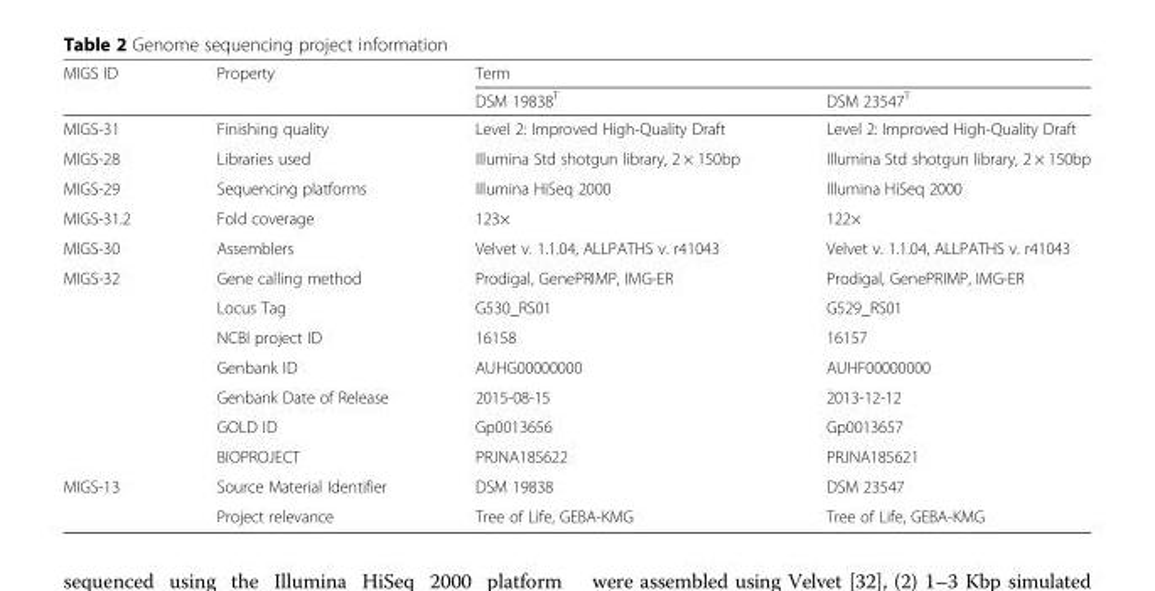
<table><thead><tr><td rowspan="2">MIGS ID</td><td rowspan="2">Property</td><td colspan="2">Term</td></tr><tr><td>DSM 19838<sup>T</sup></td><td>DSM 23547<sup>T</sup></td></tr></thead><tbody><tr><td>MIGS-31</td><td>Finishing quality</td><td>Level 2: Improved High-Quality Draft</td><td>Level 2: Improved High-Quality Draft</td></tr><tr><td>MIGS-28</td><td>Libraries used</td><td>Illumina Std shotgun library, 2 × 150bp</td><td>Illumina Std shotgun library, 2 × 150bp</td></tr><tr><td>MIGS-29</td><td>Sequencing platforms</td><td>Illumina HiSeq 2000</td><td>Illumina HiSeq 2000</td></tr><tr><td>MIGS-31.2</td><td>Fold coverage</td><td>123×</td><td>122×</td></tr><tr><td>MIGS-30</td><td>Assemblers</td><td>Velvet v. 1.1.04, ALLPATHS v. r41043</td><td>Velvet v. 1.1.04, ALLPATHS v. r41043</td></tr><tr><td rowspan="7">MIGS-32</td><td>Gene calling method</td><td>Prodigal, GenePRIMP, IMG-ER</td><td>Prodigal, GenePRIMP, IMG-ER</td></tr><tr><td>Locus Tag</td><td>G530_RS01</td><td>G529_RS01</td></tr><tr><td>NCBI project ID</td><td>16158</td><td>16157</td></tr><tr><td>Genbank ID</td><td>AUHG00000000</td><td>AUHF00000000</td></tr><tr><td>Genbank Date of Release</td><td>2015-08-15</td><td>2013-12-12</td></tr><tr><td>GOLD ID</td><td>Gp0013656</td><td>Gp0013657</td></tr><tr><td>BIOPROJECT</td><td>PRJNA185622</td><td>PRJNA185621</td></tr><tr><td rowspan="2">MIGS-13</td><td>Source Material Identifier</td><td>DSM 19838</td><td>DSM 23547</td></tr><tr><td>Project relevance</td><td>Tree of Life, GEBA-KMG</td><td>Tree of Life, GEBA-KMG</td></tr></tbody></table>